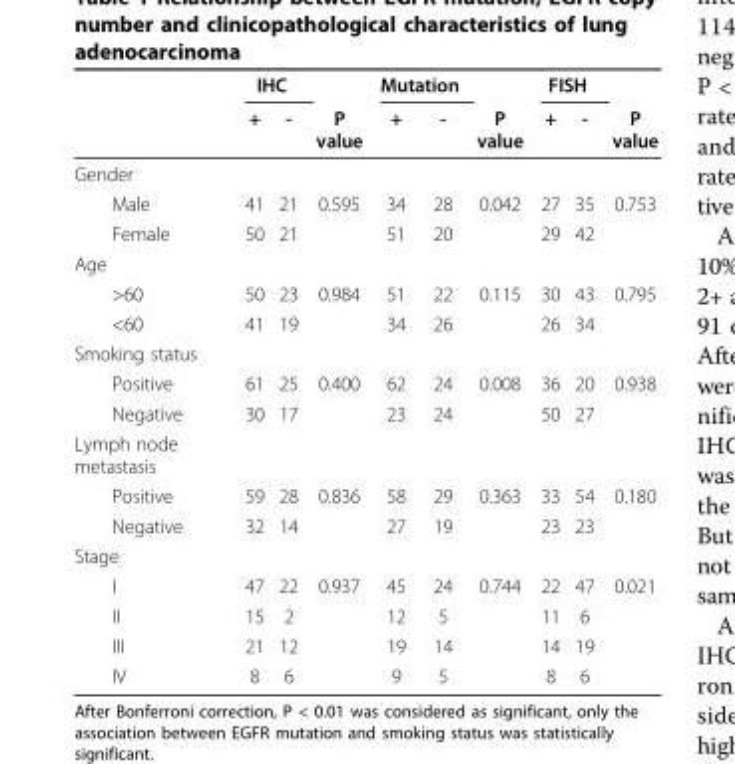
<table><thead><tr><td rowspan="2"></td><td colspan="2">IHC</td><td rowspan="2">P value</td><td colspan="2">Mutation</td><td rowspan="2">P value</td><td colspan="2">FISH</td><td rowspan="2">P value</td></tr><tr><td>+</td><td>-</td><td>+</td><td>-</td><td>+</td><td>-</td></tr></thead><tbody><tr><td colspan="10">Gender</td></tr><tr><td>Male</td><td>41</td><td>21</td><td>0.595</td><td>34</td><td>28</td><td>0.042</td><td>27</td><td>35</td><td>0.753</td></tr><tr><td>Female</td><td>50</td><td>21</td><td></td><td>51</td><td>20</td><td></td><td>29</td><td>42</td><td></td></tr><tr><td colspan="10">Age</td></tr><tr><td>&gt;60</td><td>50</td><td>23</td><td>0.984</td><td>51</td><td>22</td><td>0.115</td><td>30</td><td>43</td><td>0.795</td></tr><tr><td>&lt;60</td><td>41</td><td>19</td><td></td><td>34</td><td>26</td><td></td><td>26</td><td>34</td><td></td></tr><tr><td colspan="10">Smoking status</td></tr><tr><td>Positive</td><td>61</td><td>25</td><td>0.400</td><td>62</td><td>24</td><td>0.008</td><td>36</td><td>20</td><td>0.938</td></tr><tr><td>Negative</td><td>30</td><td>17</td><td></td><td>23</td><td>24</td><td></td><td>50</td><td>27</td><td></td></tr><tr><td colspan="10">Lymph node metastasis</td></tr><tr><td>Positive</td><td>59</td><td>28</td><td>0.836</td><td>58</td><td>29</td><td>0.363</td><td>33</td><td>54</td><td>0.180</td></tr><tr><td>Negative</td><td>32</td><td>14</td><td></td><td>27</td><td>19</td><td></td><td>23</td><td>23</td><td></td></tr><tr><td colspan="10">Stage</td></tr><tr><td>I</td><td>47</td><td>22</td><td>0.937</td><td>45</td><td>24</td><td>0.744</td><td>22</td><td>47</td><td>0.021</td></tr><tr><td>II</td><td>15</td><td>2</td><td></td><td>12</td><td>5</td><td></td><td>11</td><td>6</td><td></td></tr><tr><td>III</td><td>21</td><td>12</td><td></td><td>19</td><td>14</td><td></td><td>14</td><td>19</td><td></td></tr><tr><td>IV</td><td>8</td><td>6</td><td></td><td>9</td><td>5</td><td></td><td>8</td><td>6</td><td></td></tr></tbody></table>